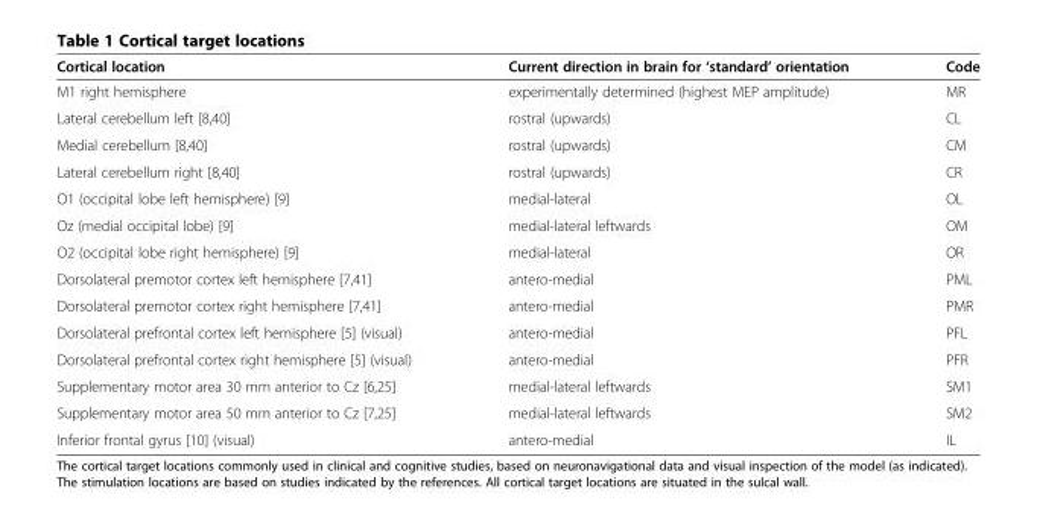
<table><thead><tr><td>Cortical location</td><td>Current direction in brain for ‘standard’ orientation</td><td>Code</td></tr></thead><tbody><tr><td>M1 right hemisphere</td><td>experimentally determined (highest MEP amplitude)</td><td>MR</td></tr><tr><td>Lateral cerebellum left [8,40]</td><td>rostral (upwards)</td><td>CL</td></tr><tr><td>Medial cerebellum [8,40]</td><td>rostral (upwards)</td><td>CM</td></tr><tr><td>Lateral cerebellum right [8,40]</td><td>rostral (upwards)</td><td>CR</td></tr><tr><td>O1 (occipital lobe left hemisphere) [9]</td><td>medial-lateral</td><td>OL</td></tr><tr><td>Oz (medial occipital lobe) [9]</td><td>medial-lateral leftwards</td><td>OM</td></tr><tr><td>O2 (occipital lobe right hemisphere) [9]</td><td>medial-lateral</td><td>OR</td></tr><tr><td>Dorsolateral premotor cortex left hemisphere [7,41]</td><td>antero-medial</td><td>PML</td></tr><tr><td>Dorsolateral premotor cortex right hemisphere [7,41]</td><td>antero-medial</td><td>PMR</td></tr><tr><td>Dorsolateral prefrontal cortex left hemisphere [5] (visual)</td><td>antero-medial</td><td>PFL</td></tr><tr><td>Dorsolateral prefrontal cortex right hemisphere [5] (visual)</td><td>antero-medial</td><td>PFR</td></tr><tr><td>Supplementary motor area 30 mm anterior to Cz [6,25]</td><td>medial-lateral leftwards</td><td>SM1</td></tr><tr><td>Supplementary motor area 50 mm anterior to Cz [7,25]</td><td>medial-lateral leftwards</td><td>SM2</td></tr><tr><td>Inferior frontal gyrus [10] (visual)</td><td>antero-medial</td><td>IL</td></tr></tbody></table>